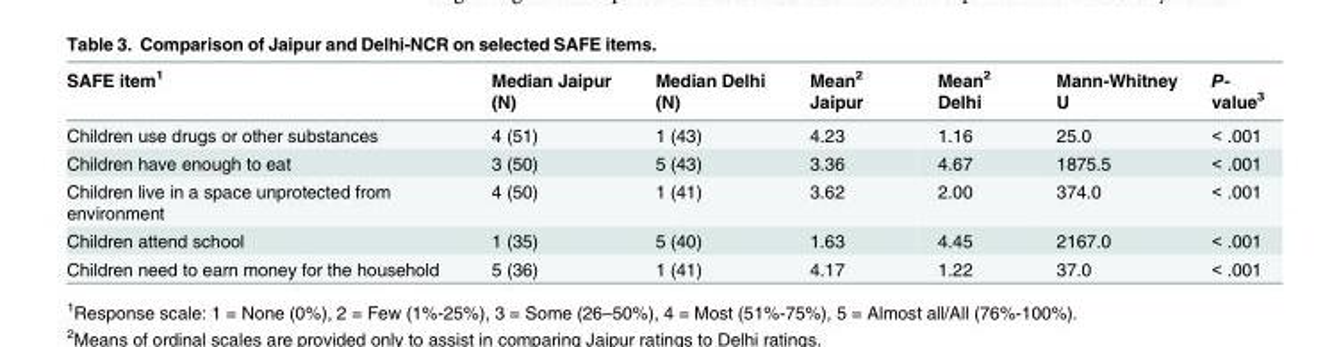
<table><thead><tr><td>SAFE item<sup>1</sup></td><td>Median Jaipur (N)</td><td>Median Delhi (N)</td><td>Mean<sup>2</sup> Jaipur</td><td>Mean<sup>2</sup> Delhi</td><td>Mann-Whitney U</td><td>P- value<sup>3</sup></td></tr></thead><tbody><tr><td>Children use drugs or other substances</td><td>4 (51)</td><td>1 (43)</td><td>4.23</td><td>1.16</td><td>25.0</td><td>&lt; .001</td></tr><tr><td>Children have enough to eat</td><td>3 (50)</td><td>5 (43)</td><td>3.36</td><td>4.67</td><td>1875.5</td><td>&lt; .001</td></tr><tr><td>Children live in a space unprotected from environment</td><td>4 (50)</td><td>1 (41)</td><td>3.62</td><td>2.00</td><td>374.0</td><td>&lt; .001</td></tr><tr><td>Children attend school</td><td>1 (35)</td><td>5 (40)</td><td>1.63</td><td>4.45</td><td>2167.0</td><td>&lt; .001</td></tr><tr><td>Children need to earn money for the household</td><td>5 (36)</td><td>1 (41)</td><td>4.17</td><td>1.22</td><td>37.0</td><td>&lt; .001</td></tr></tbody></table>